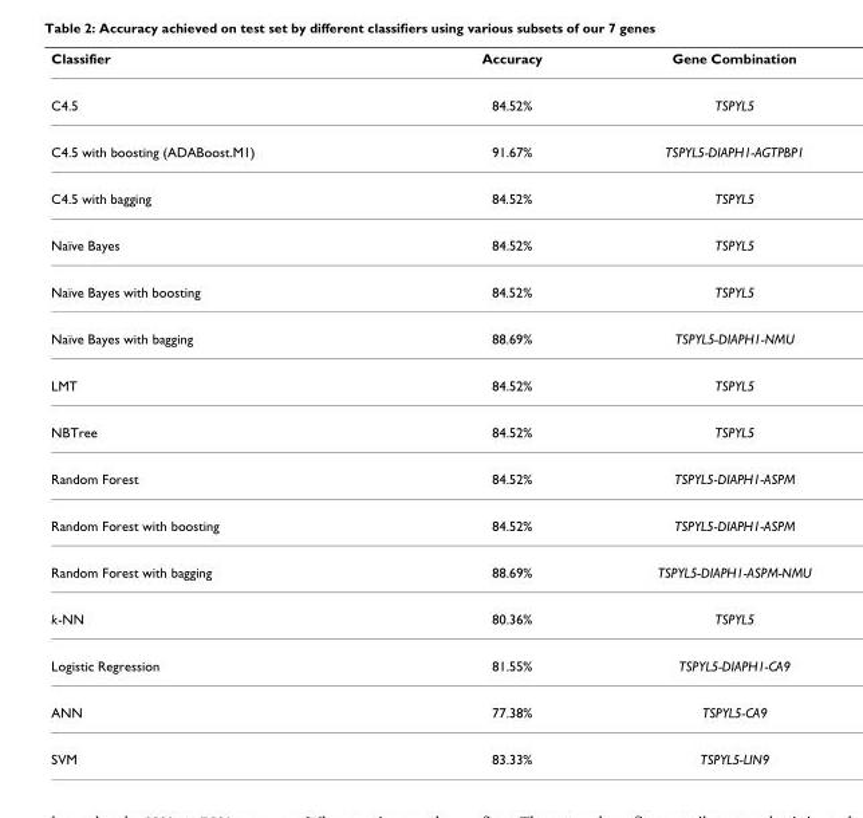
<table><thead><tr><td>Classifier</td><td>Accuracy</td><td>Gene Combination</td></tr></thead><tbody><tr><td>C4.5</td><td>84.52%</td><td>TSPYL5</td></tr><tr><td>C4.5 with boosting (ADABoost.M1)</td><td>91.67%</td><td>TSPYL5-DIAPH1-AGTPBP1</td></tr><tr><td>C4.5 with bagging</td><td>84.52%</td><td>TSPYL5</td></tr><tr><td>Naïve Bayes</td><td>84.52%</td><td>TSPYL5</td></tr><tr><td>Naïve Bayes with boosting</td><td>84.52%</td><td>TSPYL5</td></tr><tr><td>Naïve Bayes with bagging</td><td>88.69%</td><td>TSPYL5-DIAPH1-NMU</td></tr><tr><td>LMT</td><td>84.52%</td><td>TSPYL5</td></tr><tr><td>NBTree</td><td>84.52%</td><td>TSPYL5</td></tr><tr><td>Random Forest</td><td>84.52%</td><td>TSPYL5-DIAPH1-ASPM</td></tr><tr><td>Random Forest with boosting</td><td>84.52%</td><td>TSPYL5-DIAPH1-ASPM</td></tr><tr><td>Random Forest with bagging</td><td>88.69%</td><td>TSPYL5-DIAPH1-ASPM-NMU</td></tr><tr><td>k-NN</td><td>80.36%</td><td>TSPYL5</td></tr><tr><td>Logistic Regression</td><td>81.55%</td><td>TSPYL5-DIAPH1-CA9</td></tr><tr><td>ANN</td><td>77.38%</td><td>TSPYL5-CA9</td></tr><tr><td>SVM</td><td>83.33%</td><td>TSPYL5-LIN9</td></tr></tbody></table>